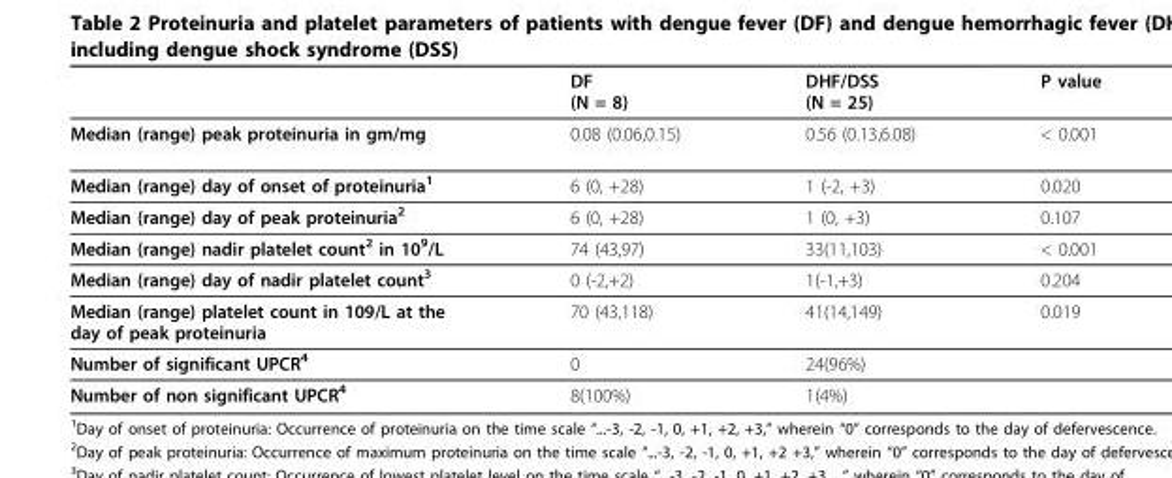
<table><thead><tr><td></td><td>DF (N = 8)</td><td>DHF/DSS (N = 25)</td><td>P value</td></tr></thead><tbody><tr><td>Median (range) peak proteinuria in gm/mg</td><td>0.08 (0.06,0.15)</td><td>0.56 (0.13,6.08)</td><td>&lt; 0.001</td></tr><tr><td>Median (range) day of onset of proteinuria<sup>1</sup></td><td>6 (0, +28)</td><td>1 (-2, +3)</td><td>0.020</td></tr><tr><td>Median (range) day of peak proteinuria<sup>2</sup></td><td>6 (0, +28)</td><td>1 (0, +3)</td><td>0.107</td></tr><tr><td>Median (range) nadir platelet count<sup>2</sup> in 10<sup>9</sup>/L</td><td>74 (43,97)</td><td>33(11,103)</td><td>&lt; 0.001</td></tr><tr><td>Median (range) day of nadir platelet count<sup>3</sup></td><td>0 (-2,+2)</td><td>1(-1,+3)</td><td>0.204</td></tr><tr><td>Median (range) platelet count in 109/L at the day of peak proteinuria</td><td>70 (43,118)</td><td>41(14,149)</td><td>0.019</td></tr><tr><td>Number of significant UPCR<sup>4</sup></td><td>0</td><td>24(96%)</td><td></td></tr><tr><td>Number of non significant UPCR<sup>4</sup></td><td>8(100%)</td><td>1(4%)</td><td></td></tr></tbody></table>